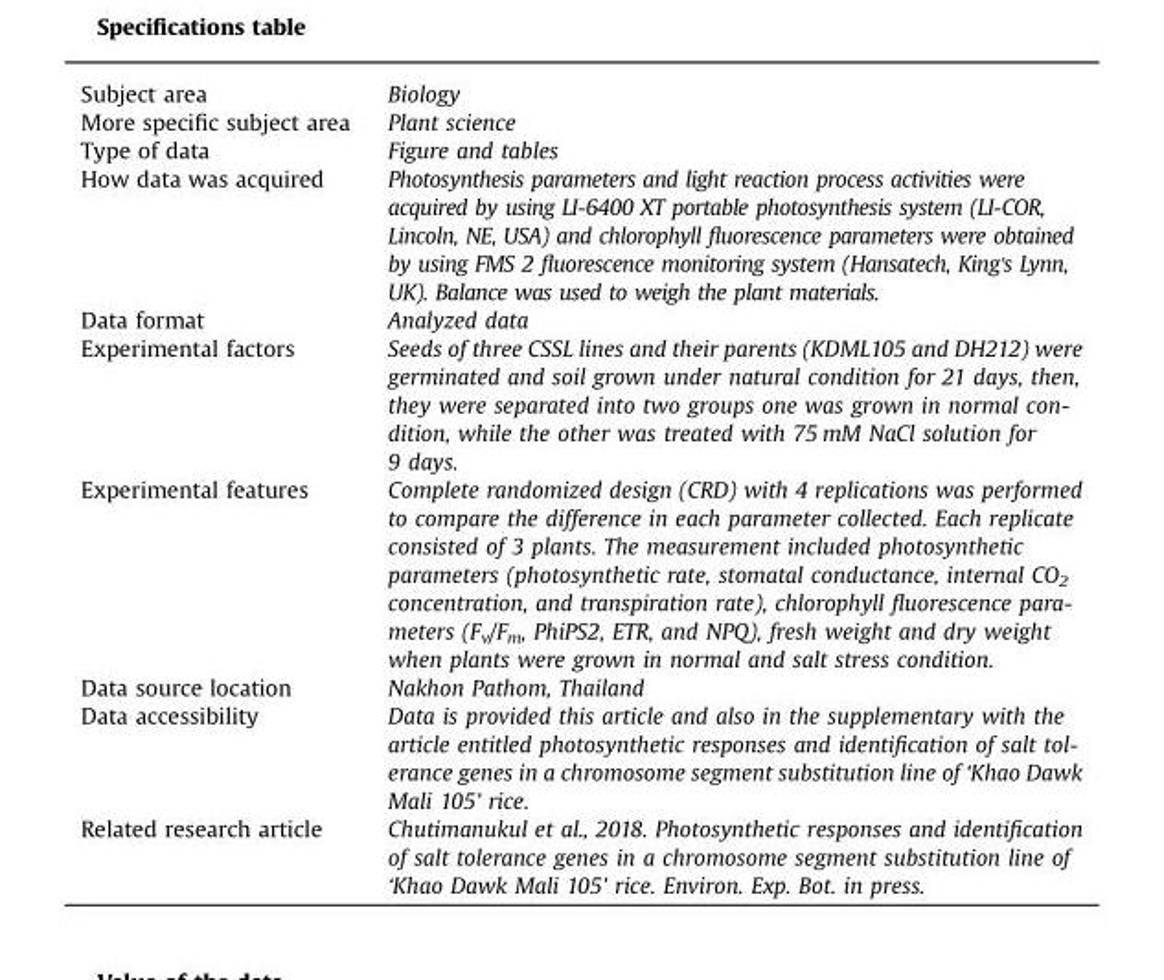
<table><tbody><tr><td>Subject area</td><td>Biology</td></tr><tr><td>More specific subject area</td><td>Plant science</td></tr><tr><td>Type of data</td><td>Figure and tables</td></tr><tr><td>How data was acquired</td><td>Photosynthesis parameters and light reaction process activities were acquired by using LI-6400 XT portable photosynthesis system (LI-COR, Lincoln, NE, USA) and chlorophyll fluorescence parameters were obtained by using FMS 2 fluorescence monitoring system (Hansatech, King&#x27;s Lynn, UK). Balance was used to weigh the plant materials.</td></tr><tr><td>Data format</td><td>Analyzed data</td></tr><tr><td>Experimental factors</td><td>Seeds of three CSSL lines and their parents (KDML105 and DH212) were germinated and soil grown under natural condition for 21 days, then, they were separated into two groups one was grown in normal con- dition, while the other was treated with 75 mM NaCl solution for 9 days.</td></tr><tr><td>Experimental features</td><td>Complete randomized design (CRD) with 4 replications was performed to compare the difference in each parameter collected. Each replicate consisted of 3 plants. The measurement included photosynthetic parameters (photosynthetic rate, stomatal conductance, internal CO2 concentration, and transpiration rate), chlorophyll fluorescence para- meters (Fv/Fm, PhiPS2, ETR, and NPQ), fresh weight and dry weight when plants were grown in normal and salt stress condition.</td></tr><tr><td>Data source location</td><td>Nakhon Pathom, Thailand</td></tr><tr><td>Data accessibility</td><td>Data is provided this article and also in the supplementary with the article entitled photosynthetic responses and identification of salt tol- erance genes in a chromosome segment substitution line of ‘Khao Dawk Mali 105’ rice.</td></tr><tr><td>Related research article</td><td>Chutimanukul et al., 2018. Photosynthetic responses and identification of salt tolerance genes in a chromosome segment substitution line of ‘Khao Dawk Mali 105’ rice. Environ. Exp. Bot. in press.</td></tr></tbody></table>